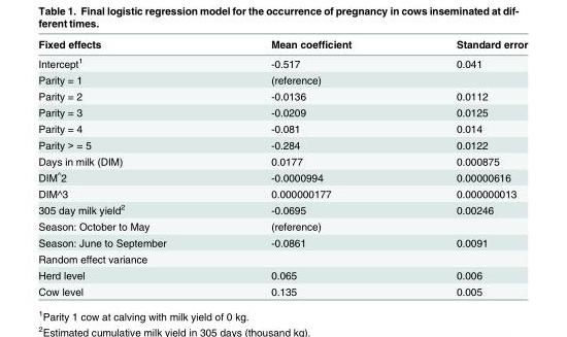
<table><thead><tr><td>Fixed effects</td><td>Mean coefficient</td><td>Standard error</td></tr></thead><tbody><tr><td>Intercept<sup>1</sup></td><td>-0.517</td><td>0.041</td></tr><tr><td>Parity = 1</td><td>(reference)</td><td></td></tr><tr><td>Parity = 2</td><td>-0.0136</td><td>0.0112</td></tr><tr><td>Parity = 3</td><td>-0.0209</td><td>0.0125</td></tr><tr><td>Parity = 4</td><td>-0.081</td><td>0.014</td></tr><tr><td>Parity &gt; = 5</td><td>-0.284</td><td>0.0122</td></tr><tr><td>Days in milk (DIM)</td><td>0.0177</td><td>0.000875</td></tr><tr><td>DIM<sup>^</sup>2</td><td>-0.0000994</td><td>0.00000616</td></tr><tr><td>DIM^3</td><td>0.000000177</td><td>0.000000013</td></tr><tr><td>305 day milk yield<sup>2</sup></td><td>-0.0695</td><td>0.00246</td></tr><tr><td>Season: October to May</td><td>(reference)</td><td></td></tr><tr><td>Season: June to September</td><td>-0.0861</td><td>0.0091</td></tr><tr><td colspan="3">Random effect variance</td></tr><tr><td>Herd level</td><td>0.065</td><td>0.006</td></tr><tr><td>Cow level</td><td>0.135</td><td>0.005</td></tr></tbody></table>